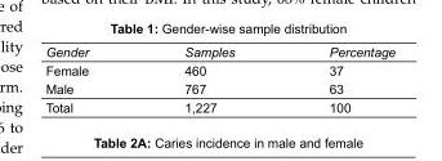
<table><tbody><tr><td>Gender</td><td>Samples</td><td>Percentage</td></tr><tr><td>Female</td><td>460</td><td>37</td></tr><tr><td>Male</td><td>767</td><td>63</td></tr><tr><td>Total</td><td>1,227</td><td>100</td></tr></tbody></table>